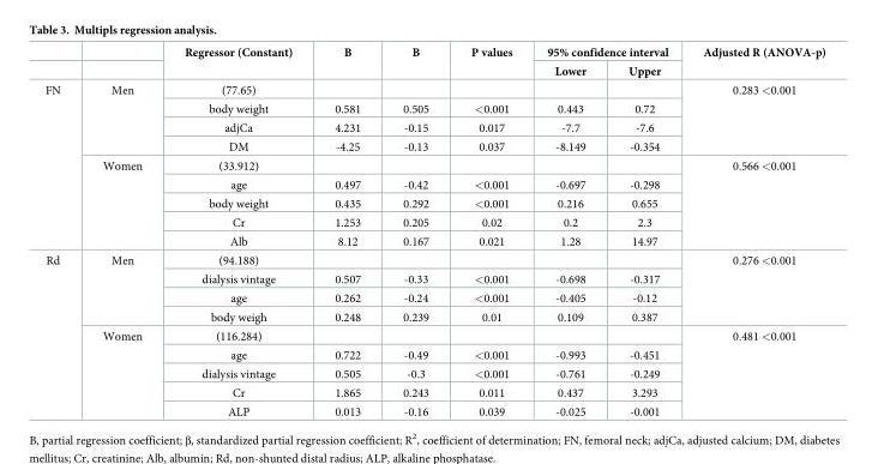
<table><thead><tr><td rowspan="2"></td><td rowspan="2"></td><td rowspan="2">Regressor (Constant)</td><td rowspan="2">B</td><td rowspan="2">Β</td><td rowspan="2">P values</td><td colspan="2">95% confidence interval</td><td rowspan="2">Adjusted R (ANOVA-p)</td></tr><tr><td>Lower</td><td>Upper</td></tr></thead><tbody><tr><td rowspan="9">FN</td><td rowspan="4">Men</td><td>(77.65)</td><td></td><td></td><td></td><td></td><td></td><td rowspan="4">0.283 &lt;0.001</td></tr><tr><td>body weight</td><td>0.581</td><td>0.505</td><td>&lt;0.001</td><td>0.443</td><td>0.72</td></tr><tr><td>adjCa</td><td>4.231</td><td>-0.15</td><td>0.017</td><td>-7.7</td><td>-7.6</td></tr><tr><td>DM</td><td>-4.25</td><td>-0.13</td><td>0.037</td><td>-8.149</td><td>-0.354</td></tr><tr><td rowspan="5">Women</td><td>(33.912)</td><td></td><td></td><td></td><td></td><td></td><td rowspan="5">0.566 &lt;0.001</td></tr><tr><td>age</td><td>0.497</td><td>-0.42</td><td>&lt;0.001</td><td>-0.697</td><td>-0.298</td></tr><tr><td>body weight</td><td>0.435</td><td>0.292</td><td>&lt;0.001</td><td>0.216</td><td>0.655</td></tr><tr><td>Cr</td><td>1.253</td><td>0.205</td><td>0.02</td><td>0.2</td><td>2.3</td></tr><tr><td>Alb</td><td>8.12</td><td>0.167</td><td>0.021</td><td>1.28</td><td>14.97</td></tr><tr><td rowspan="9">Rd</td><td rowspan="4">Men</td><td>(94.188)</td><td></td><td></td><td></td><td></td><td></td><td rowspan="4">0.276 &lt;0.001</td></tr><tr><td>dialysis vintage</td><td>0.507</td><td>-0.33</td><td>&lt;0.001</td><td>-0.698</td><td>-0.317</td></tr><tr><td>age</td><td>0.262</td><td>-0.24</td><td>&lt;0.001</td><td>-0.405</td><td>-0.12</td></tr><tr><td>body weigh</td><td>0.248</td><td>0.239</td><td>0.01</td><td>0.109</td><td>0.387</td></tr><tr><td rowspan="5">Women</td><td>(116.284)</td><td></td><td></td><td></td><td></td><td></td><td rowspan="5">0.481 &lt;0.001</td></tr><tr><td>age</td><td>0.722</td><td>-0.49</td><td>&lt;0.001</td><td>-0.993</td><td>-0.451</td></tr><tr><td>dialysis vintage</td><td>0.505</td><td>-0.3</td><td>&lt;0.001</td><td>-0.761</td><td>-0.249</td></tr><tr><td>Cr</td><td>1.865</td><td>0.243</td><td>0.011</td><td>0.437</td><td>3.293</td></tr><tr><td>ALP</td><td>0.013</td><td>-0.16</td><td>0.039</td><td>-0.025</td><td>-0.001</td></tr></tbody></table>